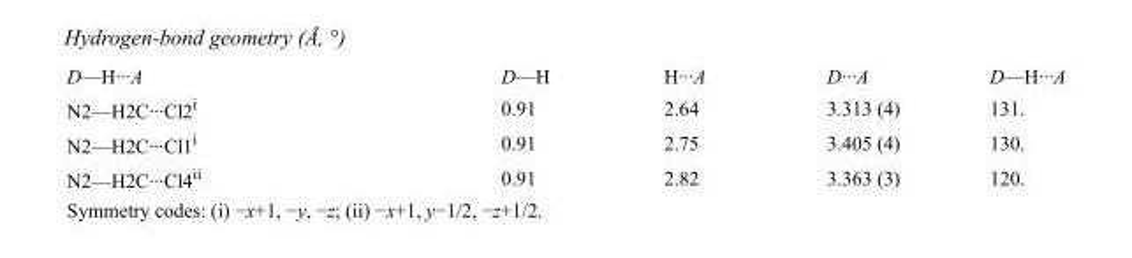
<table><tbody><tr><td>D—H···A</td><td>D—H</td><td>H···A</td><td>D···A</td><td>D—H···A</td></tr><tr><td>N2—H2C···Cl2<sup>i</sup></td><td>0.91</td><td>2.64</td><td>3.313 (4)</td><td>131.</td></tr><tr><td>N2—H2C···Cl1<sup>i</sup></td><td>0.91</td><td>2.75</td><td>3.405 (4)</td><td>130.</td></tr><tr><td>N2—H2C···Cl4<sup>ii</sup></td><td>0.91</td><td>2.82</td><td>3.363 (3)</td><td>120.</td></tr></tbody></table>